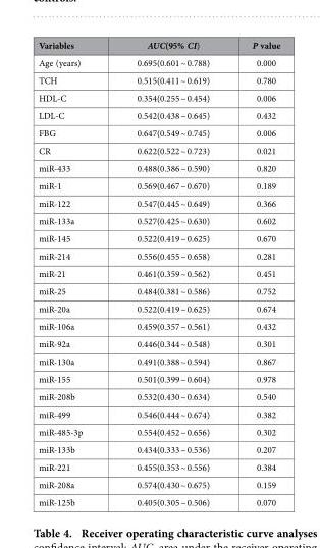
<table><thead><tr><td>Variables</td><td>AUC(95% CI)</td><td>P value</td></tr></thead><tbody><tr><td>Age (years)</td><td>0.695(0.601 ~ 0.788)</td><td>0.000</td></tr><tr><td>TCH</td><td>0.515(0.411 ~ 0.619)</td><td>0.780</td></tr><tr><td>HDL-C</td><td>0.354(0.255 ~ 0.454)</td><td>0.006</td></tr><tr><td>LDL-C</td><td>0.542(0.438 ~ 0.645)</td><td>0.432</td></tr><tr><td>FBG</td><td>0.647(0.549 ~ 0.745)</td><td>0.006</td></tr><tr><td>CR</td><td>0.622(0.522 ~ 0.723)</td><td>0.021</td></tr><tr><td>miR-433</td><td>0.488(0.386 ~ 0.590)</td><td>0.820</td></tr><tr><td>miR-1</td><td>0.569(0.467 ~ 0.670)</td><td>0.189</td></tr><tr><td>miR-122</td><td>0.547(0.445 ~ 0.649)</td><td>0.366</td></tr><tr><td>miR-133a</td><td>0.527(0.425 ~ 0.630)</td><td>0.602</td></tr><tr><td>miR-145</td><td>0.522(0.419 ~ 0.625)</td><td>0.670</td></tr><tr><td>miR-214</td><td>0.556(0.455 ~ 0.658)</td><td>0.281</td></tr><tr><td>miR-21</td><td>0.461(0.359 ~ 0.562)</td><td>0.451</td></tr><tr><td>miR-25</td><td>0.484(0.381 ~ 0.586)</td><td>0.752</td></tr><tr><td>miR-20a</td><td>0.522(0.419 ~ 0.625)</td><td>0.674</td></tr><tr><td>miR-106a</td><td>0.459(0.357 ~ 0.561)</td><td>0.432</td></tr><tr><td>miR-92a</td><td>0.446(0.344 ~ 0.548)</td><td>0.301</td></tr><tr><td>miR-130a</td><td>0.491(0.388 ~ 0.594)</td><td>0.867</td></tr><tr><td>miR-155</td><td>0.501(0.399 ~ 0.604)</td><td>0.978</td></tr><tr><td>miR-208b</td><td>0.532(0.430 ~ 0.634)</td><td>0.540</td></tr><tr><td>miR-499</td><td>0.546(0.444 ~ 0.674)</td><td>0.382</td></tr><tr><td>miR-485-3p</td><td>0.554(0.452 ~ 0.656)</td><td>0.302</td></tr><tr><td>miR-133b</td><td>0.434(0.333 ~ 0.536)</td><td>0.207</td></tr><tr><td>miR-221</td><td>0.455(0.353 ~ 0.556)</td><td>0.384</td></tr><tr><td>miR-208a</td><td>0.574(0.430 ~ 0.675)</td><td>0.159</td></tr><tr><td>miR-125b</td><td>0.405(0.305 ~ 0.506)</td><td>0.070</td></tr></tbody></table>